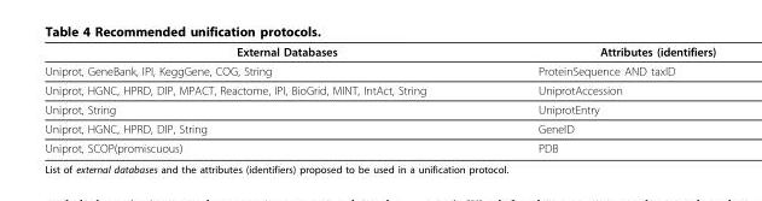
<table><thead><tr><td>External Databases</td><td>Attributes (identifiers)</td></tr></thead><tbody><tr><td>Uniprot, GeneBank, IPI, KeggGene, COG, String</td><td>ProteinSequence AND taxID</td></tr><tr><td>Uniprot, HGNC, HPRD, DIP, MPACT, Reactome, IPI, BioGrid, MINT, IntAct, String</td><td>UniprotAccession</td></tr><tr><td>Uniprot, String</td><td>UniprotEntry</td></tr><tr><td>Uniprot, HGNC, HPRD, DIP, String</td><td>GeneID</td></tr><tr><td>Uniprot, SCOP(promiscuous)</td><td>PDB</td></tr></tbody></table>